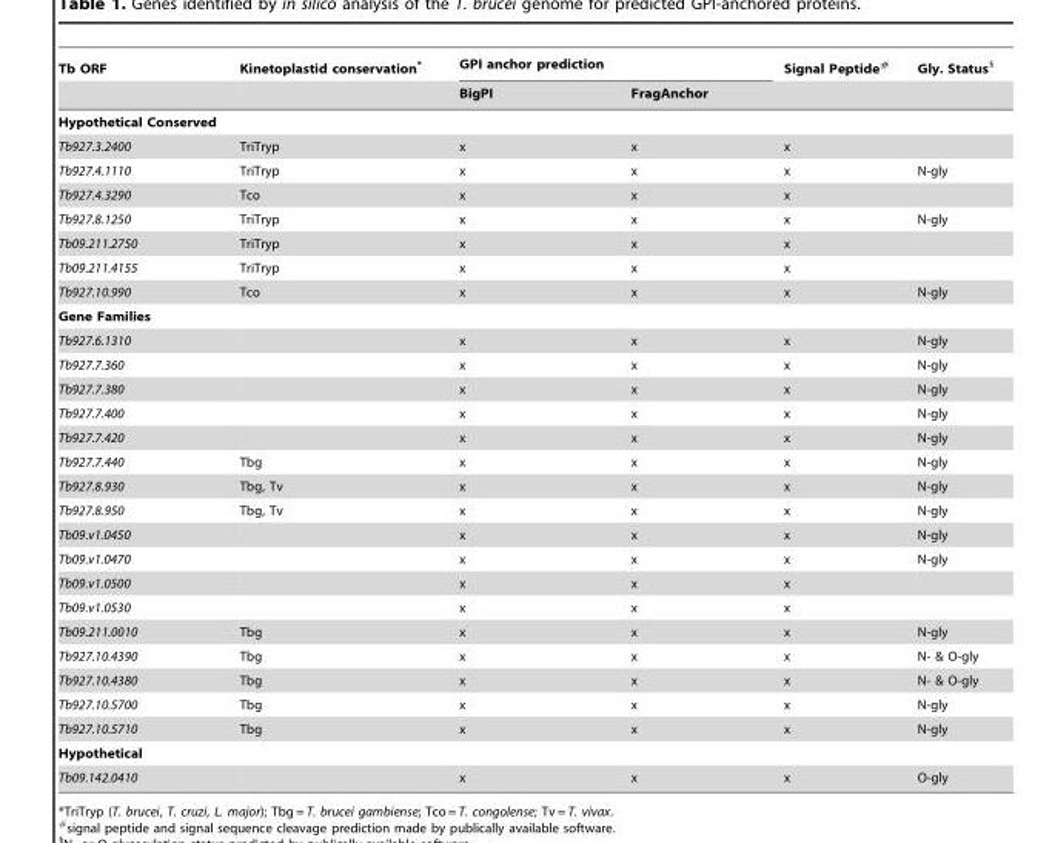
<table><thead><tr><td rowspan="2">Tb ORF</td><td rowspan="2">Kinetoplastid conservation*</td><td colspan="2">GPI anchor prediction</td><td rowspan="2">Signal Peptide#</td><td rowspan="2">Gly. Status§</td></tr><tr><td>BigPI</td><td>FragAnchor</td></tr></thead><tbody><tr><td colspan="6">Hypothetical Conserved</td></tr><tr><td>Tb927.3.2400</td><td>TriTryp</td><td>x</td><td>x</td><td>x</td><td></td></tr><tr><td>Tb927.4.1110</td><td>TriTryp</td><td>x</td><td>x</td><td>x</td><td>N-gly</td></tr><tr><td>Tb927.4.3290</td><td>Tco</td><td>x</td><td>x</td><td>x</td><td></td></tr><tr><td>Tb927.8.1250</td><td>TriTryp</td><td>x</td><td>x</td><td>x</td><td>N-gly</td></tr><tr><td>Tb09.211.2750</td><td>TriTryp</td><td>x</td><td>x</td><td>x</td><td></td></tr><tr><td>Tb09.211.4155</td><td>TriTryp</td><td>x</td><td>x</td><td>x</td><td></td></tr><tr><td>Tb927.10.990</td><td>Tco</td><td>x</td><td>x</td><td>x</td><td>N-gly</td></tr><tr><td colspan="6">Gene Families</td></tr><tr><td>Tb927.6.1310</td><td></td><td>x</td><td>x</td><td>x</td><td>N-gly</td></tr><tr><td>Tb927.7.360</td><td></td><td>x</td><td>x</td><td>x</td><td>N-gly</td></tr><tr><td>Tb927.7.380</td><td></td><td>x</td><td>x</td><td>x</td><td>N-gly</td></tr><tr><td>Tb927.7.400</td><td></td><td>x</td><td>x</td><td>x</td><td>N-gly</td></tr><tr><td>Tb927.7.420</td><td></td><td>x</td><td>x</td><td>x</td><td>N-gly</td></tr><tr><td>Tb927.7.440</td><td>Tbg</td><td>x</td><td>x</td><td>x</td><td>N-gly</td></tr><tr><td>Tb927.8.930</td><td>Tbg, Tv</td><td>x</td><td>x</td><td>x</td><td>N-gly</td></tr><tr><td>Tb927.8.950</td><td>Tbg, Tv</td><td>x</td><td>x</td><td>x</td><td>N-gly</td></tr><tr><td>Tb09.v1.0450</td><td></td><td>x</td><td>x</td><td>x</td><td>N-gly</td></tr><tr><td>Tb09.v1.0470</td><td></td><td>x</td><td>x</td><td>x</td><td>N-gly</td></tr><tr><td>Tb09.v1.0500</td><td></td><td>x</td><td>x</td><td>x</td><td></td></tr><tr><td>Tb09.v1.0530</td><td></td><td>x</td><td>x</td><td>x</td><td></td></tr><tr><td>Tb09.211.0010</td><td>Tbg</td><td>x</td><td>x</td><td>x</td><td>N-gly</td></tr><tr><td>Tb927.10.4390</td><td>Tbg</td><td>x</td><td>x</td><td>x</td><td>N- &amp; O-gly</td></tr><tr><td>Tb927.10.4380</td><td>Tbg</td><td>x</td><td>x</td><td>x</td><td>N- &amp; O-gly</td></tr><tr><td>Tb927.10.5700</td><td>Tbg</td><td>x</td><td>x</td><td>x</td><td>N-gly</td></tr><tr><td>Tb927.10.5710</td><td>Tbg</td><td>x</td><td>x</td><td>x</td><td>N-gly</td></tr><tr><td colspan="6">Hypothetical</td></tr><tr><td>Tb09.142.0410</td><td></td><td>x</td><td>x</td><td>x</td><td>O-gly</td></tr></tbody></table>